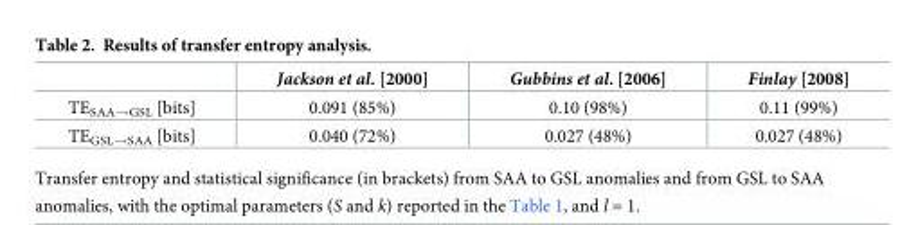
<table><thead><tr><td></td><td>Jackson et al. [2000]</td><td>Gubbins et al. [2006]</td><td>Finlay [2008]</td></tr></thead><tbody><tr><td>TE<sub>SAA→GSL</sub> [bits]</td><td>0.091 (85%)</td><td>0.10 (98%)</td><td>0.11 (99%)</td></tr><tr><td>TE<sub>GSL→SAA</sub> [bits]</td><td>0.040 (72%)</td><td>0.027 (48%)</td><td>0.027 (48%)</td></tr></tbody></table>